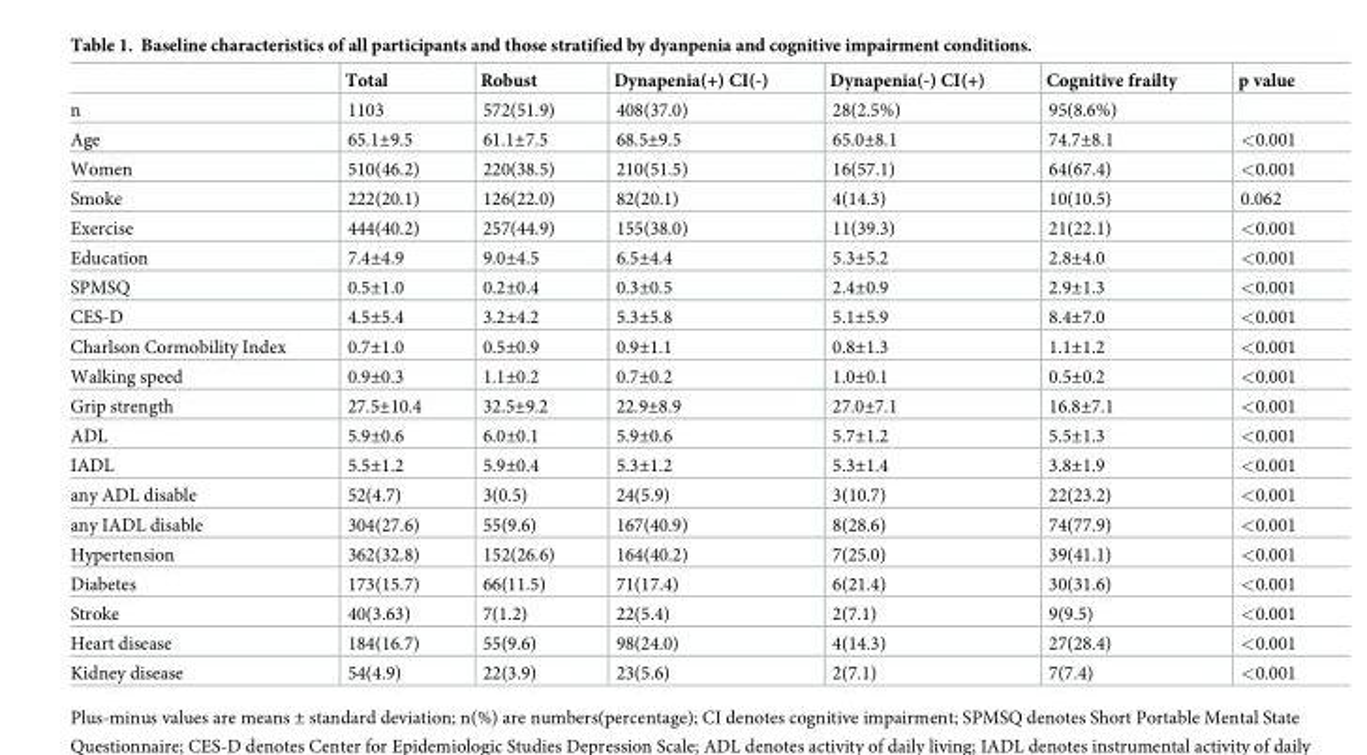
<table><thead><tr><td></td><td>Total</td><td>Robust</td><td>Dynapenia(+) CI(-)</td><td>Dynapenia(-) CI(+)</td><td>Cognitive frailty</td><td>p value</td></tr></thead><tbody><tr><td>n</td><td>1103</td><td>572(51.9)</td><td>408(37.0)</td><td>28(2.5%)</td><td>95(8.6%)</td><td></td></tr><tr><td>Age</td><td>65.1±9.5</td><td>61.1±7.5</td><td>68.5±9.5</td><td>65.0±8.1</td><td>74.7±8.1</td><td>&lt;0.001</td></tr><tr><td>Women</td><td>510(46.2)</td><td>220(38.5)</td><td>210(51.5)</td><td>16(57.1)</td><td>64(67.4)</td><td>&lt;0.001</td></tr><tr><td>Smoke</td><td>222(20.1)</td><td>126(22.0)</td><td>82(20.1)</td><td>4(14.3)</td><td>10(10.5)</td><td>0.062</td></tr><tr><td>Exercise</td><td>444(40.2)</td><td>257(44.9)</td><td>155(38.0)</td><td>11(39.3)</td><td>21(22.1)</td><td>&lt;0.001</td></tr><tr><td>Education</td><td>7.4±4.9</td><td>9.0±4.5</td><td>6.5±4.4</td><td>5.3±5.2</td><td>2.8±4.0</td><td>&lt;0.001</td></tr><tr><td>SPMSQ</td><td>0.5±1.0</td><td>0.2±0.4</td><td>0.3±0.5</td><td>2.4±0.9</td><td>2.9±1.3</td><td>&lt;0.001</td></tr><tr><td>CES-D</td><td>4.5±5.4</td><td>3.2±4.2</td><td>5.3±5.8</td><td>5.1±5.9</td><td>8.4±7.0</td><td>&lt;0.001</td></tr><tr><td>Charlson Cormobility Index</td><td>0.7±1.0</td><td>0.5±0.9</td><td>0.9±1.1</td><td>0.8±1.3</td><td>1.1±1.2</td><td>&lt;0.001</td></tr><tr><td>Walking speed</td><td>0.9±0.3</td><td>1.1±0.2</td><td>0.7±0.2</td><td>1.0±0.1</td><td>0.5±0.2</td><td>&lt;0.001</td></tr><tr><td>Grip strength</td><td>27.5±10.4</td><td>32.5±9.2</td><td>22.9±8.9</td><td>27.0±7.1</td><td>16.8±7.1</td><td>&lt;0.001</td></tr><tr><td>ADL</td><td>5.9±0.6</td><td>6.0±0.1</td><td>5.9±0.6</td><td>5.7±1.2</td><td>5.5±1.3</td><td>&lt;0.001</td></tr><tr><td>IADL</td><td>5.5±1.2</td><td>5.9±0.4</td><td>5.3±1.2</td><td>5.3±1.4</td><td>3.8±1.9</td><td>&lt;0.001</td></tr><tr><td>any ADL disable</td><td>52(4.7)</td><td>3(0.5)</td><td>24(5.9)</td><td>3(10.7)</td><td>22(23.2)</td><td>&lt;0.001</td></tr><tr><td>any IADL disable</td><td>304(27.6)</td><td>55(9.6)</td><td>167(40.9)</td><td>8(28.6)</td><td>74(77.9)</td><td>&lt;0.001</td></tr><tr><td>Hypertension</td><td>362(32.8)</td><td>152(26.6)</td><td>164(40.2)</td><td>7(25.0)</td><td>39(41.1)</td><td>&lt;0.001</td></tr><tr><td>Diabetes</td><td>173(15.7)</td><td>66(11.5)</td><td>71(17.4)</td><td>6(21.4)</td><td>30(31.6)</td><td>&lt;0.001</td></tr><tr><td>Stroke</td><td>40(3.63)</td><td>7(1.2)</td><td>22(5.4)</td><td>2(7.1)</td><td>9(9.5)</td><td>&lt;0.001</td></tr><tr><td>Heart disease</td><td>184(16.7)</td><td>55(9.6)</td><td>98(24.0)</td><td>4(14.3)</td><td>27(28.4)</td><td>&lt;0.001</td></tr><tr><td>Kidney disease</td><td>54(4.9)</td><td>22(3.9)</td><td>23(5.6)</td><td>2(7.1)</td><td>7(7.4)</td><td>&lt;0.001</td></tr></tbody></table>